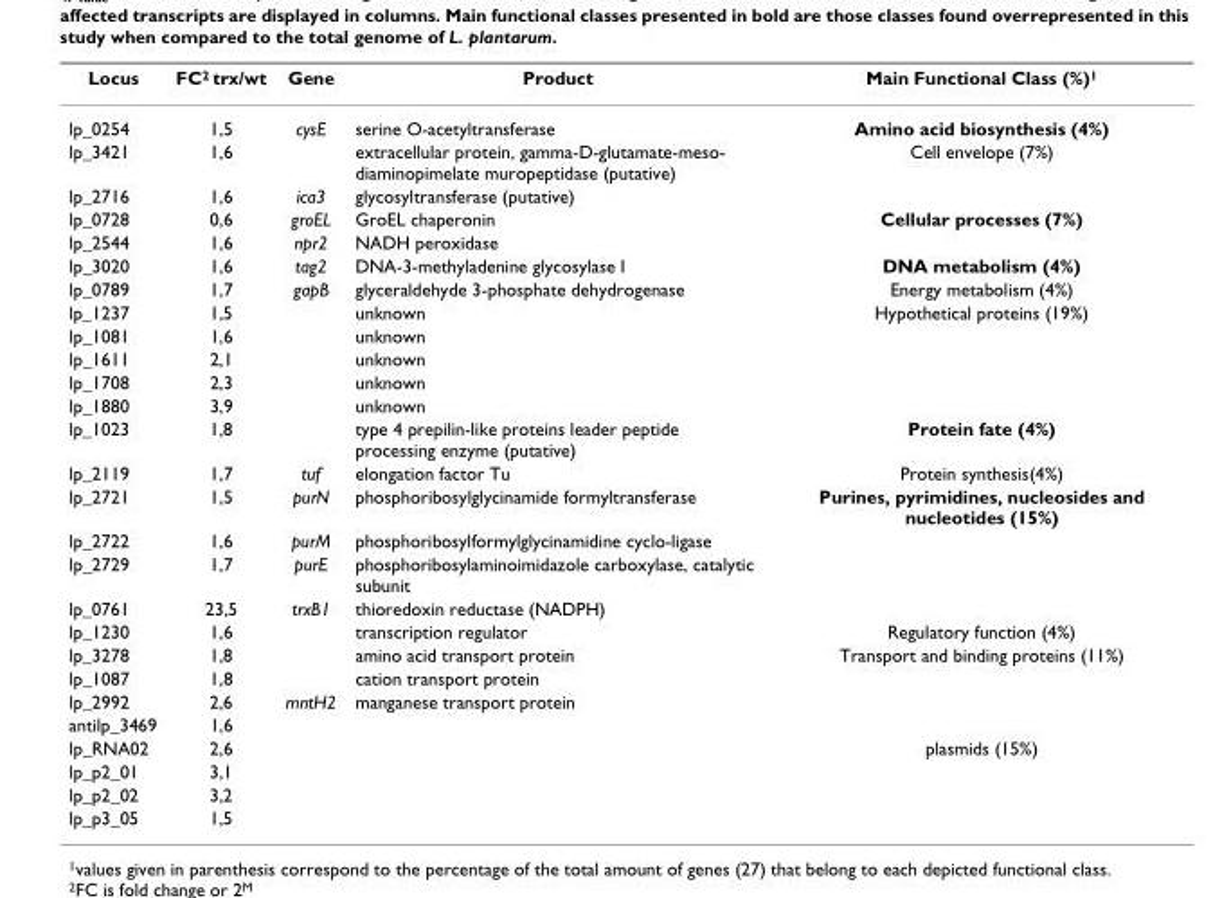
<table><thead><tr><td>Locus</td><td>FC<sup>2</sup> trx/wt</td><td>Gene</td><td>Product</td><td>Main Functional Class (%)<sup>1</sup></td></tr></thead><tbody><tr><td>lp_0254</td><td>1,5</td><td>cysE</td><td>serine O-acetyltransferase</td><td>Amino acid biosynthesis (4%)</td></tr><tr><td>lp_3421</td><td>1,6</td><td></td><td>extracellular protein, gamma-D-glutamate-meso- diaminopimelate muropeptidase (putative)</td><td>Cell envelope (7%)</td></tr><tr><td>lp_2716</td><td>1,6</td><td>ica3</td><td>glycosyltransferase (putative)</td><td></td></tr><tr><td>lp_0728</td><td>0,6</td><td>groEL</td><td>GroEL chaperonin</td><td>Cellular processes (7%)</td></tr><tr><td>lp_2544</td><td>1,6</td><td>npr2</td><td>NADH peroxidase</td><td></td></tr><tr><td>lp_3020</td><td>1,6</td><td>tag2</td><td>DNA-3-methyladenine glycosylase I</td><td>DNA metabolism (4%)</td></tr><tr><td>lp_0789</td><td>1,7</td><td>gapB</td><td>glyceraldehyde 3-phosphate dehydrogenase</td><td>Energy metabolism (4%)</td></tr><tr><td>lp_1237</td><td>1,5</td><td></td><td>unknown</td><td>Hypothetical proteins (19%)</td></tr><tr><td>lp_1081</td><td>1,6</td><td></td><td>unknown</td><td></td></tr><tr><td>lp_1611</td><td>2,1</td><td></td><td>unknown</td><td></td></tr><tr><td>lp_1708</td><td>2,3</td><td></td><td>unknown</td><td></td></tr><tr><td>lp_1880</td><td>3,9</td><td></td><td>unknown</td><td></td></tr><tr><td>lp_1023</td><td>1,8</td><td></td><td>type 4 prepilin-like proteins leader peptide processing enzyme (putative)</td><td>Protein fate (4%)</td></tr><tr><td>lp_2119</td><td>1,7</td><td>tuf</td><td>elongation factor Tu</td><td>Protein synthesis(4%)</td></tr><tr><td>lp_2721</td><td>1,5</td><td>purN</td><td>phosphoribosylglycinamide formyltransferase</td><td>Purines, pyrimidines, nucleosides and nucleotides (15%)</td></tr><tr><td>lp_2722</td><td>1,6</td><td>purM</td><td>phosphoribosylformylglycinamidine cyclo-ligase</td><td></td></tr><tr><td>lp_2729</td><td>1,7</td><td>purE</td><td>phosphoribosylaminoimidazole carboxylase, catalytic subunit</td><td></td></tr><tr><td>lp_0761</td><td>23,5</td><td>trxB1</td><td>thioredoxin reductase (NADPH)</td><td></td></tr><tr><td>lp_1230</td><td>1,6</td><td></td><td>transcription regulator</td><td>Regulatory function (4%)</td></tr><tr><td>lp_3278</td><td>1,8</td><td></td><td>amino acid transport protein</td><td>Transport and binding proteins (11%)</td></tr><tr><td>lp_1087</td><td>1,8</td><td></td><td>cation transport protein</td><td></td></tr><tr><td>lp_2992</td><td>2,6</td><td>mntH2</td><td>manganese transport protein</td><td></td></tr><tr><td>antilp_3469</td><td>1,6</td><td></td><td></td><td></td></tr><tr><td>lp_RNA02</td><td>2,6</td><td></td><td></td><td>plasmids (15%)</td></tr><tr><td>lp_p2_01</td><td>3,1</td><td></td><td></td><td></td></tr><tr><td>lp_p2_02</td><td>3,2</td><td></td><td></td><td></td></tr><tr><td>lp_p3_05</td><td>1,5</td><td></td><td></td><td></td></tr></tbody></table>